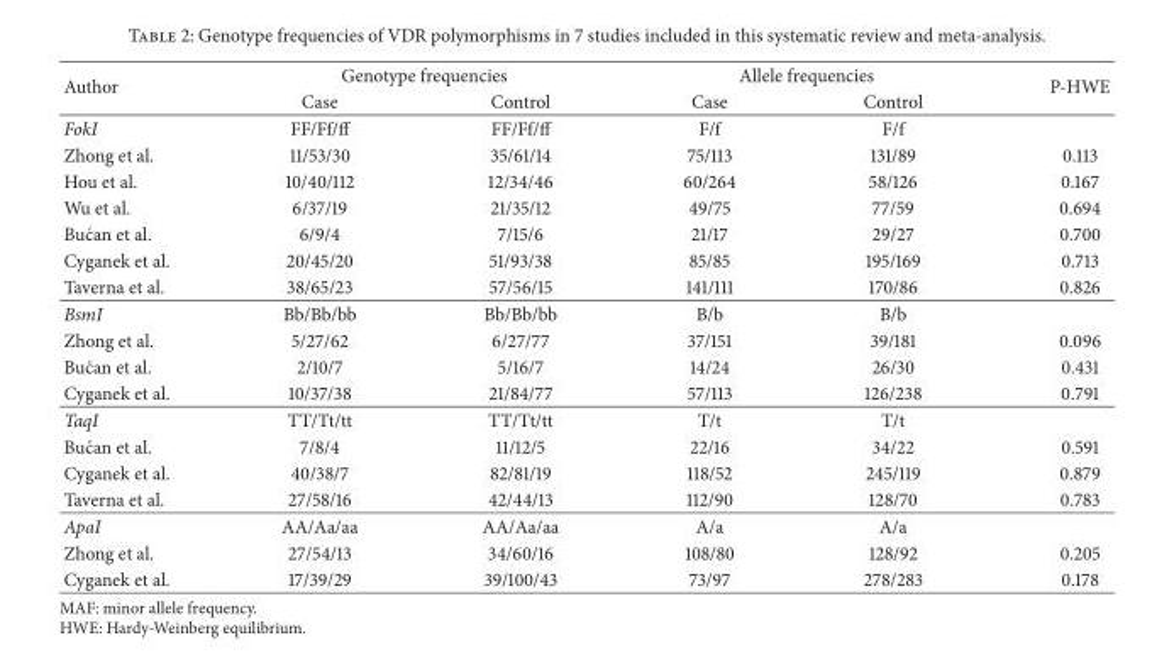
<table><thead><tr><td rowspan="2">Author</td><td colspan="2">Genotype frequencies</td><td colspan="2">Allele frequencies</td><td rowspan="2">P-HWE</td></tr><tr><td>Case</td><td>Control</td><td>Case</td><td>Control</td></tr></thead><tbody><tr><td>FokI</td><td>FF/Ff/ff</td><td>FF/Ff/ff</td><td>F/f</td><td>F/f</td><td></td></tr><tr><td>Zhong et al.</td><td>11/53/30</td><td>35/61/14</td><td>75/113</td><td>131/89</td><td>0.113</td></tr><tr><td>Hou et al.</td><td>10/40/112</td><td>12/34/46</td><td>60/264</td><td>58/126</td><td>0.167</td></tr><tr><td>Wu et al.</td><td>6/37/19</td><td>21/35/12</td><td>49/75</td><td>77/59</td><td>0.694</td></tr><tr><td>Bu´can et al.</td><td>6/9/4</td><td>7/15/6</td><td>21/17</td><td>29/27</td><td>0.700</td></tr><tr><td>Cyganek et al.</td><td>20/45/20</td><td>51/93/38</td><td>85/85</td><td>195/169</td><td>0.713</td></tr><tr><td>Taverna et al.</td><td>38/65/23</td><td>57/56/15</td><td>141/111</td><td>170/86</td><td>0.826</td></tr><tr><td>BsmI</td><td>Bb/Bb/bb</td><td>Bb/Bb/bb</td><td>B/b</td><td>B/b</td><td></td></tr><tr><td>Zhong et al.</td><td>5/27/62</td><td>6/27/77</td><td>37/151</td><td>39/181</td><td>0.096</td></tr><tr><td>Bu´can et al.</td><td>2/10/7</td><td>5/16/7</td><td>14/24</td><td>26/30</td><td>0.431</td></tr><tr><td>Cyganek et al.</td><td>10/37/38</td><td>21/84/77</td><td>57/113</td><td>126/238</td><td>0.791</td></tr><tr><td>TaqI</td><td>TT/Tt/tt</td><td>TT/Tt/tt</td><td>T/t</td><td>T/t</td><td></td></tr><tr><td>Bu´can et al.</td><td>7/8/4</td><td>11/12/5</td><td>22/16</td><td>34/22</td><td>0.591</td></tr><tr><td>Cyganek et al.</td><td>40/38/7</td><td>82/81/19</td><td>118/52</td><td>245/119</td><td>0.879</td></tr><tr><td>Taverna et al.</td><td>27/58/16</td><td>42/44/13</td><td>112/90</td><td>128/70</td><td>0.783</td></tr><tr><td>ApaI</td><td>AA/Aa/aa</td><td>AA/Aa/aa</td><td>A/a</td><td>A/a</td><td></td></tr><tr><td>Zhong et al.</td><td>27/54/13</td><td>34/60/16</td><td>108/80</td><td>128/92</td><td>0.205</td></tr><tr><td>Cyganek et al.</td><td>17/39/29</td><td>39/100/43</td><td>73/97</td><td>278/283</td><td>0.178</td></tr></tbody></table>